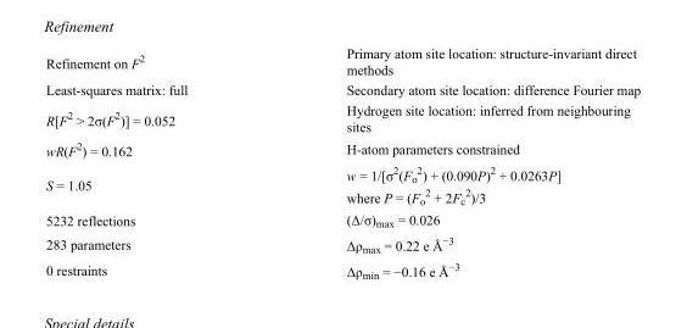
<table><tbody><tr><td>Refinement on F<sup>2</sup></td><td>Primary atom site location: structure-invariant direct methods</td></tr><tr><td>Least-squares matrix: full</td><td>Secondary atom site location: difference Fourier map</td></tr><tr><td>R[F<sup>2</sup> &gt; 2σ(F<sup>2</sup>)] = 0.052</td><td>Hydrogen site location: inferred from neighbouring sites</td></tr><tr><td>wR(F<sup>2</sup>) = 0.162</td><td>H-atom parameters constrained</td></tr><tr><td>S = 1.05</td><td>w = 1/[σ<sup>2</sup>(F<sub>o</sub> <sup>2</sup>) + (0.090P)<sup>2</sup> + 0.0263P] where P = (F<sub>o</sub> <sup>2</sup> + 2F<sub>c</sub> <sup>2</sup>)/3</td></tr><tr><td>5232 reflections</td><td>(Δ/σ)<sub>max</sub> = 0.026</td></tr><tr><td>283 parameters</td><td>Δρ<sub>max</sub> = 0.22 e Å<sup>−3</sup></td></tr><tr><td>0 restraints</td><td>Δρ<sub>min</sub> = −0.16 e Å<sup>−3</sup></td></tr></tbody></table>